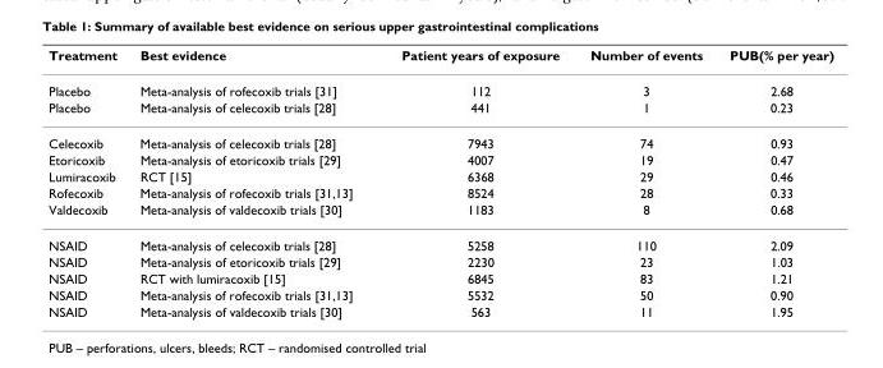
<table><thead><tr><td>Treatment</td><td>Best evidence</td><td>Patient years of exposure</td><td>Number of events</td><td>PUB(% per year)</td></tr></thead><tbody><tr><td>Placebo</td><td>Meta-analysis of rofecoxib trials [31]</td><td>112</td><td>3</td><td>2.68</td></tr><tr><td>Placebo</td><td>Meta-analysis of celecoxib trials [28]</td><td>441</td><td>1</td><td>0.23</td></tr><tr><td>Celecoxib</td><td>Meta-analysis of celecoxib trials [28]</td><td>7943</td><td>74</td><td>0.93</td></tr><tr><td>Etoricoxib</td><td>Meta-analysis of etoricoxib trials [29]</td><td>4007</td><td>19</td><td>0.47</td></tr><tr><td>Lumiracoxib</td><td>RCT [15]</td><td>6368</td><td>29</td><td>0.46</td></tr><tr><td>Rofecoxib</td><td>Meta-analysis of rofecoxib trials [31,13]</td><td>8524</td><td>28</td><td>0.33</td></tr><tr><td>Valdecoxib</td><td>Meta-analysis of valdecoxib trials [30]</td><td>1183</td><td>8</td><td>0.68</td></tr><tr><td>NSAID</td><td>Meta-analysis of celecoxib trials [28]</td><td>5258</td><td>110</td><td>2.09</td></tr><tr><td>NSAID</td><td>Meta-analysis of etoricoxib trials [29]</td><td>2230</td><td>23</td><td>1.03</td></tr><tr><td>NSAID</td><td>RCT with lumiracoxib [15]</td><td>6845</td><td>83</td><td>1.21</td></tr><tr><td>NSAID</td><td>Meta-analysis of rofecoxib trials [31,13]</td><td>5532</td><td>50</td><td>0.90</td></tr><tr><td>NSAID</td><td>Meta-analysis of valdecoxib trials [30]</td><td>563</td><td>11</td><td>1.95</td></tr></tbody></table>